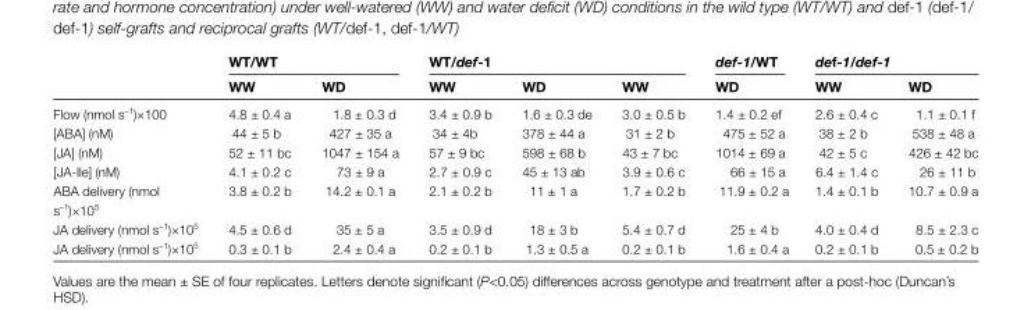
<table><thead><tr><td rowspan="2"></td><td colspan="2">WT/WT</td><td colspan="3">WT/def-1</td><td rowspan="2">def-1/WT WD</td><td colspan="2">def-1/def-1</td></tr><tr><td>WW</td><td>WD</td><td>WW</td><td>WD</td><td>WW</td><td>WW</td><td>WD</td></tr></thead><tbody><tr><td>Flow (nmol s<sup>–1</sup>)×100</td><td>4.8 ± 0.4 a</td><td>1.8 ± 0.3 d</td><td>3.4 ± 0.9 b</td><td>1.6 ± 0.3 de</td><td>3.0 ± 0.5 b</td><td>1.4 ± 0.2 ef</td><td>2.6 ± 0.4 c</td><td>1.1 ± 0.1 f</td></tr><tr><td>[ABA] (nM)</td><td>44 ± 5 b</td><td>427 ± 35 a</td><td>34 ± 4b</td><td>378 ± 44 a</td><td>31 ± 2 b</td><td>475 ± 52 a</td><td>38 ± 2 b</td><td>538 ± 48 a</td></tr><tr><td>[JA] (nM)</td><td>52 ± 11 bc</td><td>1047 ± 154 a</td><td>57 ± 9 bc</td><td>598 ± 68 b</td><td>43 ± 7 bc</td><td>1014 ± 69 a</td><td>42 ± 5 c</td><td>426 ± 42 bc</td></tr><tr><td>[JA-Ile] (nM)</td><td>4.1 ± 0.2 c</td><td>73 ± 9 a</td><td>2.7 ± 0.9 c</td><td>45 ± 13 ab</td><td>3.9 ± 0.6 c</td><td>66 ± 15 a</td><td>6.4 ± 1.4 c</td><td>26 ± 11 b</td></tr><tr><td>ABA delivery (nmol s<sup>–1</sup>)×10<sup>5</sup></td><td>3.8 ± 0.2 b</td><td>14.2 ± 0.1 a</td><td>2.1 ± 0.2 b</td><td>11 ± 1 a</td><td>1.7 ± 0.2 b</td><td>11.9 ± 0.2 a</td><td>1.4 ± 0.1 b</td><td>10.7 ± 0.9 a</td></tr><tr><td>JA delivery (nmol s<sup>–1</sup>)×10<sup>5</sup></td><td>4.5 ± 0.6 d</td><td>35 ± 5 a</td><td>3.5 ± 0.9 d</td><td>18 ± 3 b</td><td>5.4 ± 0.7 d</td><td>25 ± 4 b</td><td>4.0 ± 0.4 d</td><td>8.5 ± 2.3 c</td></tr><tr><td>JA delivery (nmol s<sup>–1</sup>)×10<sup>5</sup></td><td>0.3 ± 0.1 b</td><td>2.4 ± 0.4 a</td><td>0.2 ± 0.1 b</td><td>1.3 ± 0.5 a</td><td>0.2 ± 0.1 b</td><td>1.6 ± 0.4 a</td><td>0.2 ± 0.1 b</td><td>0.5 ± 0.2 b</td></tr></tbody></table>